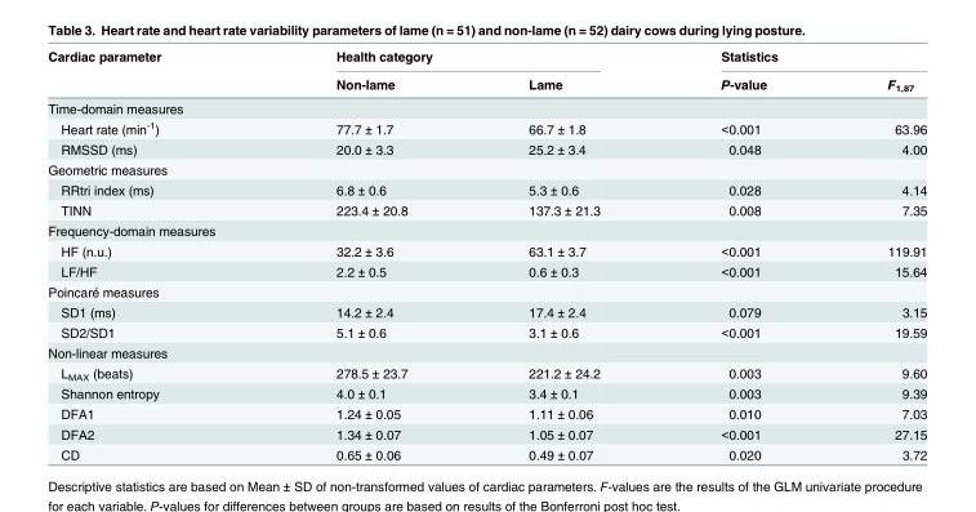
<table><thead><tr><td rowspan="2">Cardiac parameter</td><td colspan="2">Health category</td><td colspan="2">Statistics</td></tr><tr><td>Non-lame</td><td>Lame</td><td>P-value</td><td>F<sub>1,87</sub></td></tr></thead><tbody><tr><td colspan="5">Time-domain measures</td></tr><tr><td>Heart rate (min<sup>-1</sup>)</td><td>77.7 ± 1.7</td><td>66.7 ± 1.8</td><td>&lt;0.001</td><td>63.96</td></tr><tr><td>RMSSD (ms)</td><td>20.0 ± 3.3</td><td>25.2 ± 3.4</td><td>0.048</td><td>4.00</td></tr><tr><td colspan="5">Geometric measures</td></tr><tr><td>RRtri index (ms)</td><td>6.8 ± 0.6</td><td>5.3 ± 0.6</td><td>0.028</td><td>4.14</td></tr><tr><td>TINN</td><td>223.4 ± 20.8</td><td>137.3 ± 21.3</td><td>0.008</td><td>7.35</td></tr><tr><td colspan="5">Frequency-domain measures</td></tr><tr><td>HF (n.u.)</td><td>32.2 ± 3.6</td><td>63.1 ± 3.7</td><td>&lt;0.001</td><td>119.91</td></tr><tr><td>LF/HF</td><td>2.2 ± 0.5</td><td>0.6 ± 0.3</td><td>&lt;0.001</td><td>15.64</td></tr><tr><td colspan="5">Poincaré measures</td></tr><tr><td>SD1 (ms)</td><td>14.2 ± 2.4</td><td>17.4 ± 2.4</td><td>0.079</td><td>3.15</td></tr><tr><td>SD2/SD1</td><td>5.1 ± 0.6</td><td>3.1 ± 0.6</td><td>&lt;0.001</td><td>19.59</td></tr><tr><td colspan="5">Non-linear measures</td></tr><tr><td>L<sub>MAX</sub> (beats)</td><td>278.5 ± 23.7</td><td>221.2 ± 24.2</td><td>0.003</td><td>9.60</td></tr><tr><td>Shannon entropy</td><td>4.0 ± 0.1</td><td>3.4 ± 0.1</td><td>0.003</td><td>9.39</td></tr><tr><td>DFA1</td><td>1.24 ± 0.05</td><td>1.11 ± 0.06</td><td>0.010</td><td>7.03</td></tr><tr><td>DFA2</td><td>1.34 ± 0.07</td><td>1.05 ± 0.07</td><td>&lt;0.001</td><td>27.15</td></tr><tr><td>CD</td><td>0.65 ± 0.06</td><td>0.49 ± 0.07</td><td>0.020</td><td>3.72</td></tr></tbody></table>